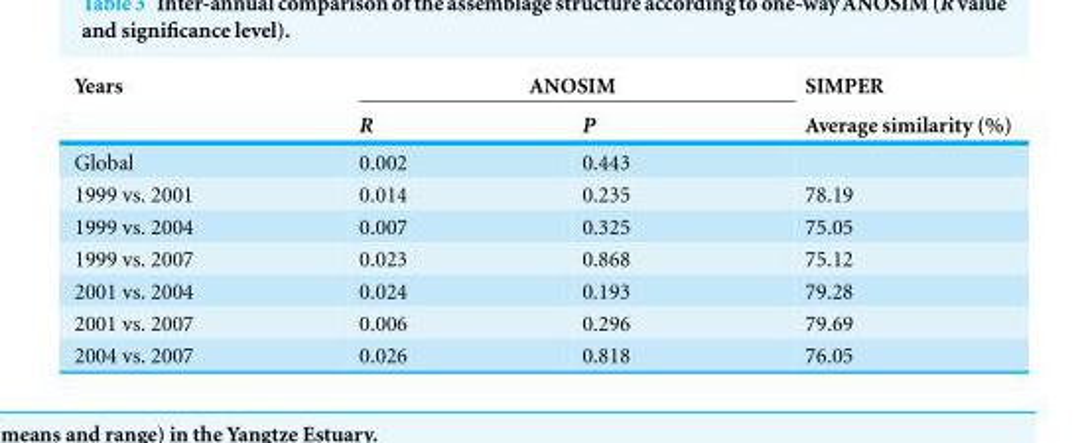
<table><thead><tr><td rowspan="2">Years</td><td colspan="2">ANOSIM</td><td rowspan="2">SIMPER Average similarity (%)</td></tr><tr><td>R</td><td>P</td></tr></thead><tbody><tr><td>Global</td><td>0.002</td><td>0.443</td><td></td></tr><tr><td>1999 vs. 2001</td><td>0.014</td><td>0.235</td><td>78.19</td></tr><tr><td>1999 vs. 2004</td><td>0.007</td><td>0.325</td><td>75.05</td></tr><tr><td>1999 vs. 2007</td><td>0.023</td><td>0.868</td><td>75.12</td></tr><tr><td>2001 vs. 2004</td><td>0.024</td><td>0.193</td><td>79.28</td></tr><tr><td>2001 vs. 2007</td><td>0.006</td><td>0.296</td><td>79.69</td></tr><tr><td>2004 vs. 2007</td><td>0.026</td><td>0.818</td><td>76.05</td></tr></tbody></table>